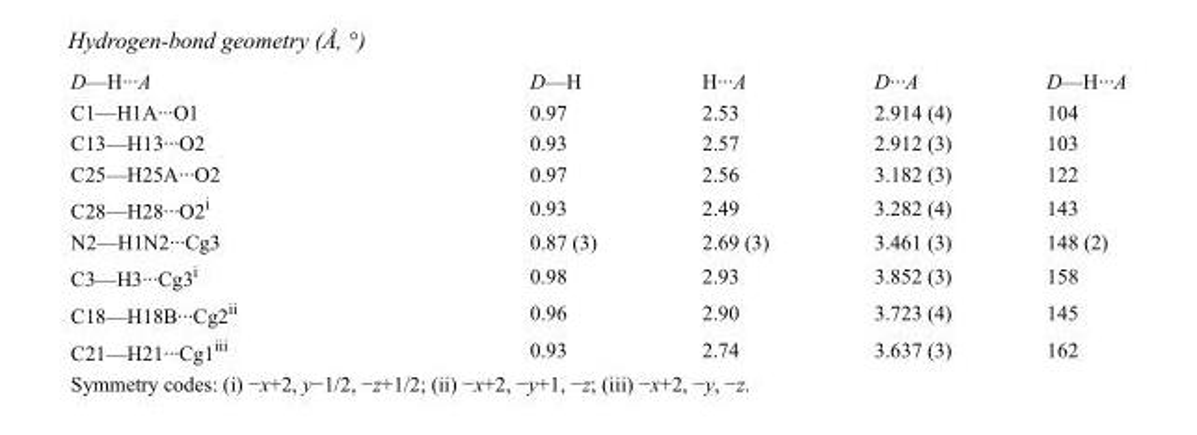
<table><tbody><tr><td>D—H···A</td><td>D—H</td><td>H···A</td><td>D···A</td><td>D—H···A</td></tr><tr><td>C1—H1A···O1</td><td>0.97</td><td>2.53</td><td>2.914 (4)</td><td>104</td></tr><tr><td>C13—H13···O2</td><td>0.93</td><td>2.57</td><td>2.912 (3)</td><td>103</td></tr><tr><td>C25—H25A···O2</td><td>0.97</td><td>2.56</td><td>3.182 (3)</td><td>122</td></tr><tr><td>C28—H28···O2<sup>i</sup></td><td>0.93</td><td>2.49</td><td>3.282 (4)</td><td>143</td></tr><tr><td>N2—H1N2···Cg3</td><td>0.87 (3)</td><td>2.69 (3)</td><td>3.461 (3)</td><td>148 (2)</td></tr><tr><td>C3—H3···Cg3<sup>i</sup></td><td>0.98</td><td>2.93</td><td>3.852 (3)</td><td>158</td></tr><tr><td>C18—H18B···Cg2<sup>ii</sup></td><td>0.96</td><td>2.90</td><td>3.723 (4)</td><td>145</td></tr><tr><td>C21—H21···Cg1<sup>iii</sup></td><td>0.93</td><td>2.74</td><td>3.637 (3)</td><td>162</td></tr></tbody></table>